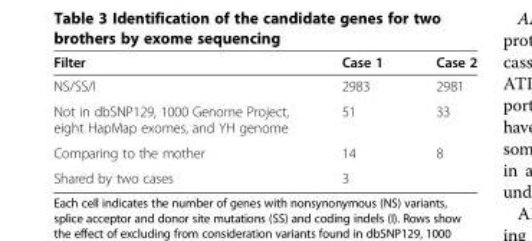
<table><thead><tr><td>Filter</td><td>Case 1</td><td>Case 2</td></tr></thead><tbody><tr><td>NS/SS/I</td><td>2983</td><td>2981</td></tr><tr><td>Not in dbSNP129, 1000 Genome Project, eight HapMap exomes, and YH genome</td><td>51</td><td>33</td></tr><tr><td>Comparing to the mother</td><td>14</td><td>8</td></tr><tr><td>Shared by two cases</td><td colspan="2">3</td></tr></tbody></table>